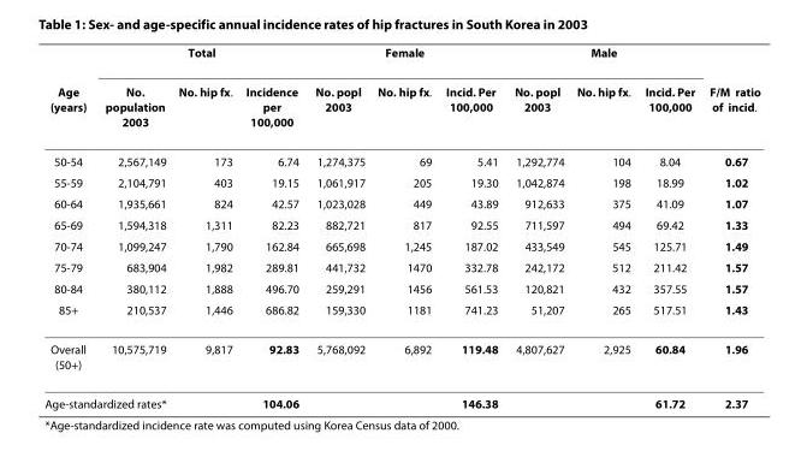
<table><thead><tr><td rowspan="2">Age (years)</td><td colspan="3">Total</td><td colspan="3">Female</td><td colspan="3">Male</td><td rowspan="2">F/M ratio of incid.</td></tr><tr><td>No. population 2003</td><td>No. hip fx.</td><td>Incidence per 100,000</td><td>No. popl 2003</td><td>No. hip fx.</td><td>Incid. Per 100,000</td><td>No. popl 2003</td><td>No. hip fx.</td><td>Incid. Per 100,000</td></tr></thead><tbody><tr><td>50-54</td><td>2,567,149</td><td>173</td><td>6.74</td><td>1,274,375</td><td>69</td><td>5.41</td><td>1,292,774</td><td>104</td><td>8.04</td><td>0.67</td></tr><tr><td>55-59</td><td>2,104,791</td><td>403</td><td>19.15</td><td>1,061,917</td><td>205</td><td>19.30</td><td>1,042,874</td><td>198</td><td>18.99</td><td>1.02</td></tr><tr><td>60-64</td><td>1,935,661</td><td>824</td><td>42.57</td><td>1,023,028</td><td>449</td><td>43.89</td><td>912,633</td><td>375</td><td>41.09</td><td>1.07</td></tr><tr><td>65-69</td><td>1,594,318</td><td>1,311</td><td>82.23</td><td>882,721</td><td>817</td><td>92.55</td><td>711,597</td><td>494</td><td>69.42</td><td>1.33</td></tr><tr><td>70-74</td><td>1,099,247</td><td>1,790</td><td>162.84</td><td>665,698</td><td>1,245</td><td>187.02</td><td>433,549</td><td>545</td><td>125.71</td><td>1.49</td></tr><tr><td>75-79</td><td>683,904</td><td>1,982</td><td>289.81</td><td>441,732</td><td>1470</td><td>332.78</td><td>242,172</td><td>512</td><td>211.42</td><td>1.57</td></tr><tr><td>80-84</td><td>380,112</td><td>1,888</td><td>496.70</td><td>259,291</td><td>1456</td><td>561.53</td><td>120,821</td><td>432</td><td>357.55</td><td>1.57</td></tr><tr><td>85+</td><td>210,537</td><td>1,446</td><td>686.82</td><td>159,330</td><td>1181</td><td>741.23</td><td>51,207</td><td>265</td><td>517.51</td><td>1.43</td></tr><tr><td>Overall (50+)</td><td>10,575,719</td><td>9,817</td><td>92.83</td><td>5,768,092</td><td>6,892</td><td>119.48</td><td>4,807,627</td><td>2,925</td><td>60.84</td><td>1.96</td></tr><tr><td colspan="2">Age-standardized rates*</td><td></td><td>104.06</td><td></td><td></td><td>146.38</td><td></td><td></td><td>61.72</td><td>2.37</td></tr></tbody></table>